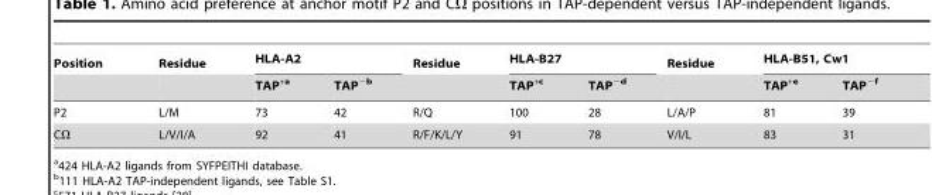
<table><thead><tr><td rowspan="2">Position</td><td rowspan="2">Residue</td><td colspan="2">HLA-A2</td><td rowspan="2">Residue</td><td colspan="2">HLA-B27</td><td rowspan="2">Residue</td><td colspan="2">HLA-B51, Cw1</td></tr><tr><td>TAP<sup>+a</sup></td><td>TAP<sup>−b</sup></td><td>TAP<sup>+c</sup></td><td>TAP<sup>−d</sup></td><td>TAP<sup>+e</sup></td><td>TAP<sup>−f</sup></td></tr></thead><tbody><tr><td>P2</td><td>L/M</td><td>73</td><td>42</td><td>R/Q</td><td>100</td><td>28</td><td>L/A/P</td><td>81</td><td>39</td></tr><tr><td>CΩ</td><td>L/V/I/A</td><td>92</td><td>41</td><td>R/F/K/L/Y</td><td>91</td><td>78</td><td>V/I/L</td><td>83</td><td>31</td></tr></tbody></table>